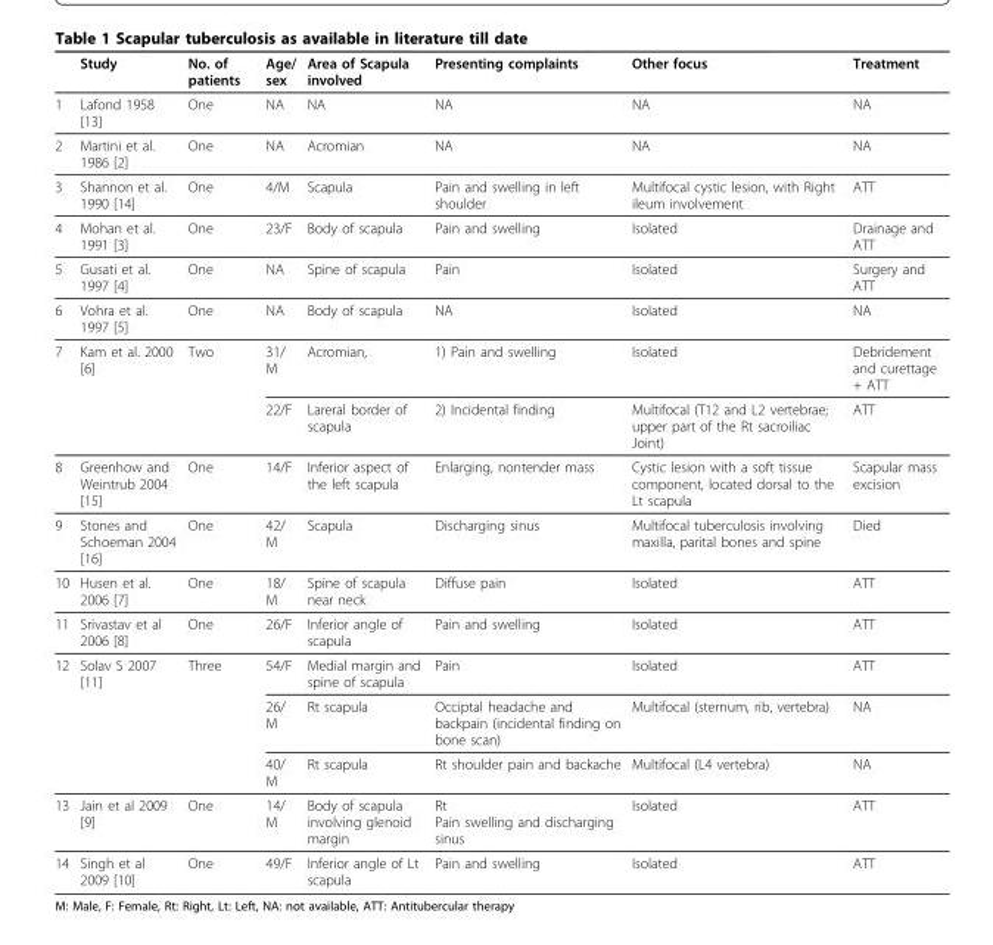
<table><thead><tr><td></td><td>Study</td><td>No. of patients</td><td>Age/ sex</td><td>Area of Scapula involved</td><td>Presenting complaints</td><td>Other focus</td><td>Treatment</td></tr></thead><tbody><tr><td>1</td><td>Lafond 1958 [13]</td><td>One</td><td>NA</td><td>NA</td><td>NA</td><td>NA</td><td>NA</td></tr><tr><td>2</td><td>Martini et al. 1986 [2]</td><td>One</td><td>NA</td><td>Acromian</td><td>NA</td><td>NA</td><td>NA</td></tr><tr><td>3</td><td>Shannon et al. 1990 [14]</td><td>One</td><td>4/M</td><td>Scapula</td><td>Pain and swelling in left shoulder</td><td>Multifocal cystic lesion, with Right ileum involvement</td><td>ATT</td></tr><tr><td>4</td><td>Mohan et al. 1991 [3]</td><td>One</td><td>23/F</td><td>Body of scapula</td><td>Pain and swelling</td><td>Isolated</td><td>Drainage and ATT</td></tr><tr><td>5</td><td>Gusati et al. 1997 [4]</td><td>One</td><td>NA</td><td>Spine of scapula</td><td>Pain</td><td>Isolated</td><td>Surgery and ATT</td></tr><tr><td>6</td><td>Vohra et al. 1997 [5]</td><td>One</td><td>NA</td><td>Body of scapula</td><td>NA</td><td>Isolated</td><td>NA</td></tr><tr><td rowspan="2">7</td><td>Kam et al. 2000 [6]</td><td>Two</td><td>31/ M</td><td>Acromian,</td><td>1) Pain and swelling</td><td>Isolated</td><td>Debridement and curettage + ATT</td></tr><tr><td></td><td></td><td>22/F</td><td>Lareral border of scapula</td><td>2) Incidental finding</td><td>Multifocal (T12 and L2 vertebrae; upper part of the Rt sacroiliac Joint)</td><td>ATT</td></tr><tr><td>8</td><td>Greenhow and Weintrub 2004 [15]</td><td>One</td><td>14/F</td><td>Inferior aspect of the left scapula</td><td>Enlarging, nontender mass</td><td>Cystic lesion with a soft tissue component, located dorsal to the Lt scapula</td><td>Scapular mass excision</td></tr><tr><td>9</td><td>Stones and Schoeman 2004 [16]</td><td>One</td><td>42/ M</td><td>Scapula</td><td>Discharging sinus</td><td>Multifocal tuberculosis involving maxilla, parital bones and spine</td><td>Died</td></tr><tr><td>10</td><td>Husen et al. 2006 [7]</td><td>One</td><td>18/ M</td><td>Spine of scapula near neck</td><td>Diffuse pain</td><td>Isolated</td><td>ATT</td></tr><tr><td>11</td><td>Srivastav et al 2006 [8]</td><td>One</td><td>26/F</td><td>Inferior angle of scapula</td><td>Pain and swelling</td><td>Isolated</td><td>ATT</td></tr><tr><td rowspan="3">12</td><td>Solav S 2007 [11]</td><td>Three</td><td>54/F</td><td>Medial margin and spine of scapula</td><td>Pain</td><td>Isolated</td><td>ATT</td></tr><tr><td></td><td></td><td>26/ M</td><td>Rt scapula</td><td>Occiptal headache and backpain (incidental finding on bone scan)</td><td>Multifocal (sternum, rib, vertebra)</td><td>NA</td></tr><tr><td></td><td></td><td>40/ M</td><td>Rt scapula</td><td>Rt shoulder pain and backache</td><td>Multifocal (L4 vertebra)</td><td>NA</td></tr><tr><td>13</td><td>Jain et al 2009 [9]</td><td>One</td><td>14/ M</td><td>Body of scapula involving glenoid margin</td><td>Rt Pain swelling and discharging sinus</td><td>Isolated</td><td>ATT</td></tr><tr><td>14</td><td>Singh et al 2009 [10]</td><td>One</td><td>49/F</td><td>Inferior angle of Lt scapula</td><td>Pain and swelling</td><td>Isolated</td><td>ATT</td></tr></tbody></table>